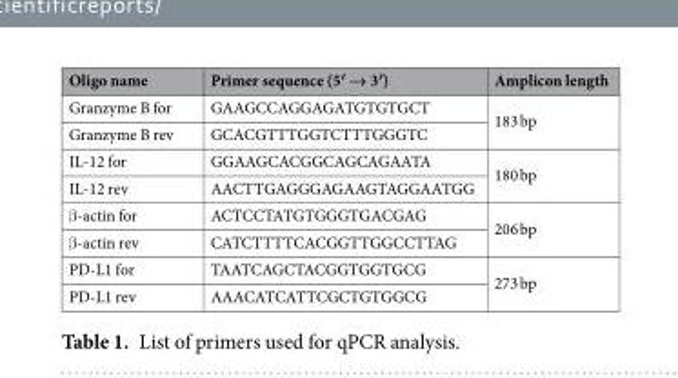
<table><thead><tr><td>Oligo name</td><td>Primer sequence (5′ → 3′)</td><td>Amplicon length</td></tr></thead><tbody><tr><td>Granzyme B for</td><td>GAAGCCAGGAGATGTGTGCT</td><td rowspan="2">183 bp</td></tr><tr><td>Granzyme B rev</td><td>GCACGTTTGGTCTTTGGGTC</td></tr><tr><td>IL-12 for</td><td>GGAAGCACGGCAGCAGAATA</td><td rowspan="2">180 bp</td></tr><tr><td>IL-12 rev</td><td>AACTTGAGGGAGAAGTAGGAATGG</td></tr><tr><td>β-actin for</td><td>ACTCCTATGTGGGTGACGAG</td><td rowspan="2">206 bp</td></tr><tr><td>β-actin rev</td><td>CATCTTTTCACGGTTGGCCTTAG</td></tr><tr><td>PD-L1 for</td><td>TAATCAGCTACGGTGGTGCG</td><td rowspan="2">273 bp</td></tr><tr><td>PD-L1 rev</td><td>AAACATCATTCGCTGTGGCG</td></tr></tbody></table>